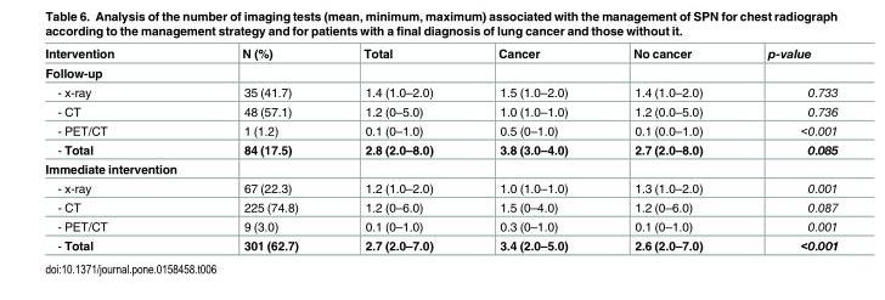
<table><thead><tr><td>Intervention</td><td>N (%)</td><td>Total</td><td>Cancer</td><td>No cancer</td><td>p-value</td></tr></thead><tbody><tr><td colspan="6">Follow-up</td></tr><tr><td>- x-ray</td><td>35 (41.7)</td><td>1.4 (1.0–2.0)</td><td>1.5 (1.0–2.0)</td><td>1.4 (1.0–2.0)</td><td>0.733</td></tr><tr><td>- CT</td><td>48 (57.1)</td><td>1.2 (0–5.0)</td><td>1.0 (1.0–1.0)</td><td>1.2 (0.0–5.0)</td><td>0.736</td></tr><tr><td>- PET/CT</td><td>1 (1.2)</td><td>0.1 (0–1.0)</td><td>0.5 (0–1.0)</td><td>0.1 (0.0–1.0)</td><td>&lt;0.001</td></tr><tr><td>- Total</td><td>84 (17.5)</td><td>2.8 (2.0–8.0)</td><td>3.8 (3.0–4.0)</td><td>2.7 (2.0–8.0)</td><td>0.085</td></tr><tr><td colspan="6">Immediate intervention</td></tr><tr><td>- x-ray</td><td>67 (22.3)</td><td>1.2 (1.0–2.0)</td><td>1.0 (1.0–1.0)</td><td>1.3 (1.0–2.0)</td><td>0.001</td></tr><tr><td>- CT</td><td>225 (74.8)</td><td>1.2 (0–6.0)</td><td>1.5 (0–4.0)</td><td>1.2 (0–6.0)</td><td>0.087</td></tr><tr><td>- PET/CT</td><td>9 (3.0)</td><td>0.1 (0–1.0)</td><td>0.3 (0–1.0)</td><td>0.1 (0–1.0)</td><td>0.001</td></tr><tr><td>- Total</td><td>301 (62.7)</td><td>2.7 (2.0–7.0)</td><td>3.4 (2.0–5.0)</td><td>2.6 (2.0–7.0)</td><td>&lt;0.001</td></tr></tbody></table>